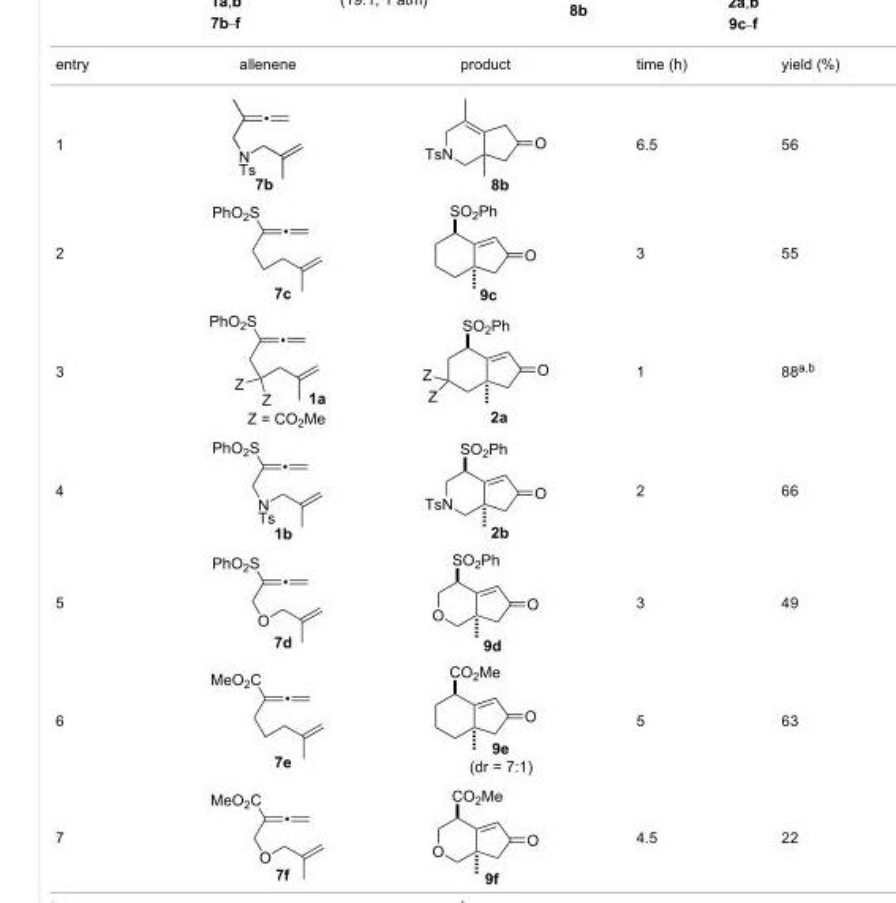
<table><tbody><tr><td>entry</td><td>allenene</td><td>product</td><td>time (h)</td><td>yield (%)</td></tr><tr><td>1</td><td></td><td></td><td>6.5</td><td>56</td></tr><tr><td>2</td><td></td><td></td><td>3</td><td>55</td></tr><tr><td>3</td><td></td><td></td><td>1</td><td>88<sup>a,b</sup></td></tr><tr><td>4</td><td></td><td></td><td>2</td><td>66</td></tr><tr><td>5</td><td></td><td></td><td>3</td><td>49</td></tr><tr><td>6</td><td></td><td></td><td>5</td><td>63</td></tr><tr><td>7</td><td></td><td></td><td>4.5</td><td>22</td></tr></tbody></table>